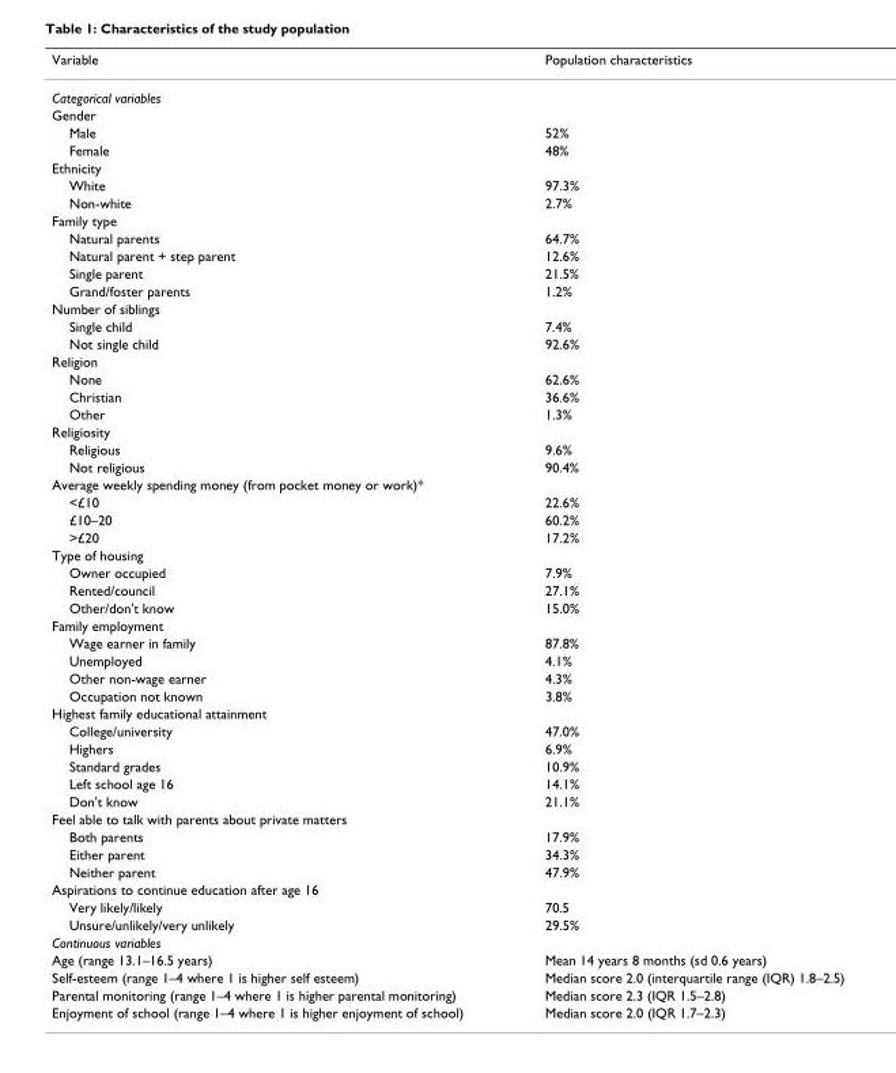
<table><thead><tr><td>Variable</td><td>Population characteristics</td></tr></thead><tbody><tr><td colspan="2">Categorical variables</td></tr><tr><td colspan="2">Gender</td></tr><tr><td>Male</td><td>52%</td></tr><tr><td>Female</td><td>48%</td></tr><tr><td colspan="2">Ethnicity</td></tr><tr><td>White</td><td>97.3%</td></tr><tr><td>Non-white</td><td>2.7%</td></tr><tr><td colspan="2">Family type</td></tr><tr><td>Natural parents</td><td>64.7%</td></tr><tr><td>Natural parent + step parent</td><td>12.6%</td></tr><tr><td>Single parent</td><td>21.5%</td></tr><tr><td>Grand/foster parents</td><td>1.2%</td></tr><tr><td colspan="2">Number of siblings</td></tr><tr><td>Single child</td><td>7.4%</td></tr><tr><td>Not single child</td><td>92.6%</td></tr><tr><td colspan="2">Religion</td></tr><tr><td>None</td><td>62.6%</td></tr><tr><td>Christian</td><td>36.6%</td></tr><tr><td>Other</td><td>1.3%</td></tr><tr><td colspan="2">Religiosity</td></tr><tr><td>Religious</td><td>9.6%</td></tr><tr><td>Not religious</td><td>90.4%</td></tr><tr><td colspan="2">Average weekly spending money (from pocket money or work)*</td></tr><tr><td>&lt;£10</td><td>22.6%</td></tr><tr><td>£10–20</td><td>60.2%</td></tr><tr><td>&gt;£20</td><td>17.2%</td></tr><tr><td colspan="2">Type of housing</td></tr><tr><td>Owner occupied</td><td>7.9%</td></tr><tr><td>Rented/council</td><td>27.1%</td></tr><tr><td>Other/don&#x27;t know</td><td>15.0%</td></tr><tr><td colspan="2">Family employment</td></tr><tr><td>Wage earner in family</td><td>87.8%</td></tr><tr><td>Unemployed</td><td>4.1%</td></tr><tr><td>Other non-wage earner</td><td>4.3%</td></tr><tr><td>Occupation not known</td><td>3.8%</td></tr><tr><td colspan="2">Highest family educational attainment</td></tr><tr><td>College/university</td><td>47.0%</td></tr><tr><td>Highers</td><td>6.9%</td></tr><tr><td>Standard grades</td><td>10.9%</td></tr><tr><td>Left school age 16</td><td>14.1%</td></tr><tr><td>Don&#x27;t know</td><td>21.1%</td></tr><tr><td colspan="2">Feel able to talk with parents about private matters</td></tr><tr><td>Both parents</td><td>17.9%</td></tr><tr><td>Either parent</td><td>34.3%</td></tr><tr><td>Neither parent</td><td>47.9%</td></tr><tr><td colspan="2">Aspirations to continue education after age 16</td></tr><tr><td>Very likely/likely</td><td>70.5</td></tr><tr><td>Unsure/unlikely/very unlikely</td><td>29.5%</td></tr><tr><td colspan="2">Continuous variables</td></tr><tr><td>Age (range 13.1–16.5 years)</td><td>Mean 14 years 8 months (sd 0.6 years)</td></tr><tr><td>Self-esteem (range 1–4 where 1 is higher self esteem)</td><td>Median score 2.0 (interquartile range (IQR) 1.8–2.5)</td></tr><tr><td>Parental monitoring (range 1–4 where 1 is higher parental monitoring)</td><td>Median score 2.3 (IQR 1.5–2.8)</td></tr><tr><td>Enjoyment of school (range 1–4 where 1 is higher enjoyment of school)</td><td>Median score 2.0 (IQR 1.7–2.3)</td></tr></tbody></table>